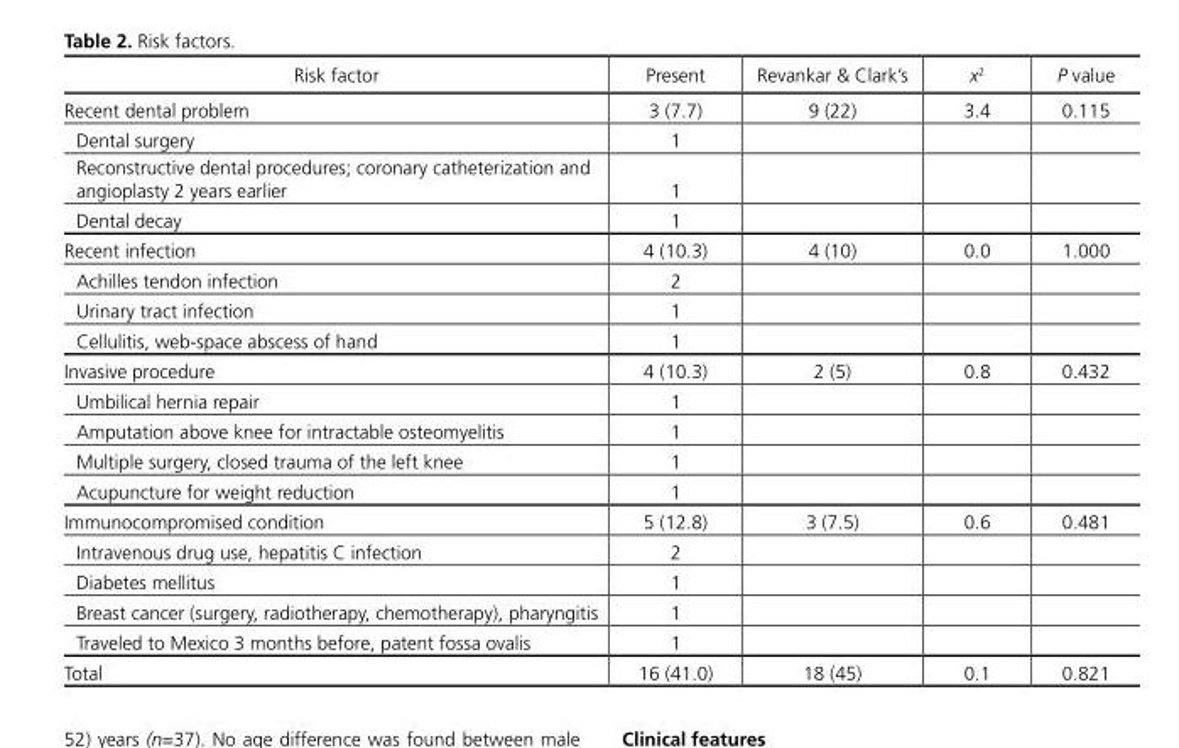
<table><thead><tr><td>Risk factor</td><td>Present</td><td>Revankar &amp; Clark’s</td><td>x<sup>2</sup></td><td>P value</td></tr></thead><tbody><tr><td>Recent dental problem</td><td>3 (7.7)</td><td>9 (22)</td><td>3.4</td><td>0.115</td></tr><tr><td>Dental surgery</td><td>1</td><td></td><td></td><td></td></tr><tr><td>Reconstructive dental procedures; coronary catheterization and angioplasty 2 years earlier</td><td>1</td><td></td><td></td><td></td></tr><tr><td>Dental decay</td><td>1</td><td></td><td></td><td></td></tr><tr><td>Recent infection</td><td>4 (10.3)</td><td>4 (10)</td><td>0.0</td><td>1.000</td></tr><tr><td>Achilles tendon infection</td><td>2</td><td></td><td></td><td></td></tr><tr><td>Urinary tract infection</td><td>1</td><td></td><td></td><td></td></tr><tr><td>Cellulitis, web-space abscess of hand</td><td>1</td><td></td><td></td><td></td></tr><tr><td>Invasive procedure</td><td>4 (10.3)</td><td>2 (5)</td><td>0.8</td><td>0.432</td></tr><tr><td>Umbilical hernia repair</td><td>1</td><td></td><td></td><td></td></tr><tr><td>Amputation above knee for intractable osteomyelitis</td><td>1</td><td></td><td></td><td></td></tr><tr><td>Multiple surgery, closed trauma of the left knee</td><td>1</td><td></td><td></td><td></td></tr><tr><td>Acupuncture for weight reduction</td><td>1</td><td></td><td></td><td></td></tr><tr><td>Immunocompromised condition</td><td>5 (12.8)</td><td>3 (7.5)</td><td>0.6</td><td>0.481</td></tr><tr><td>Intravenous drug use, hepatitis C infection</td><td>2</td><td></td><td></td><td></td></tr><tr><td>Diabetes mellitus</td><td>1</td><td></td><td></td><td></td></tr><tr><td>Breast cancer (surgery, radiotherapy, chemotherapy), pharyngitis</td><td>1</td><td></td><td></td><td></td></tr><tr><td>Traveled to Mexico 3 months before, patent fossa ovalis</td><td>1</td><td></td><td></td><td></td></tr><tr><td>Total</td><td>16 (41.0)</td><td>18 (45)</td><td>0.1</td><td>0.821</td></tr></tbody></table>